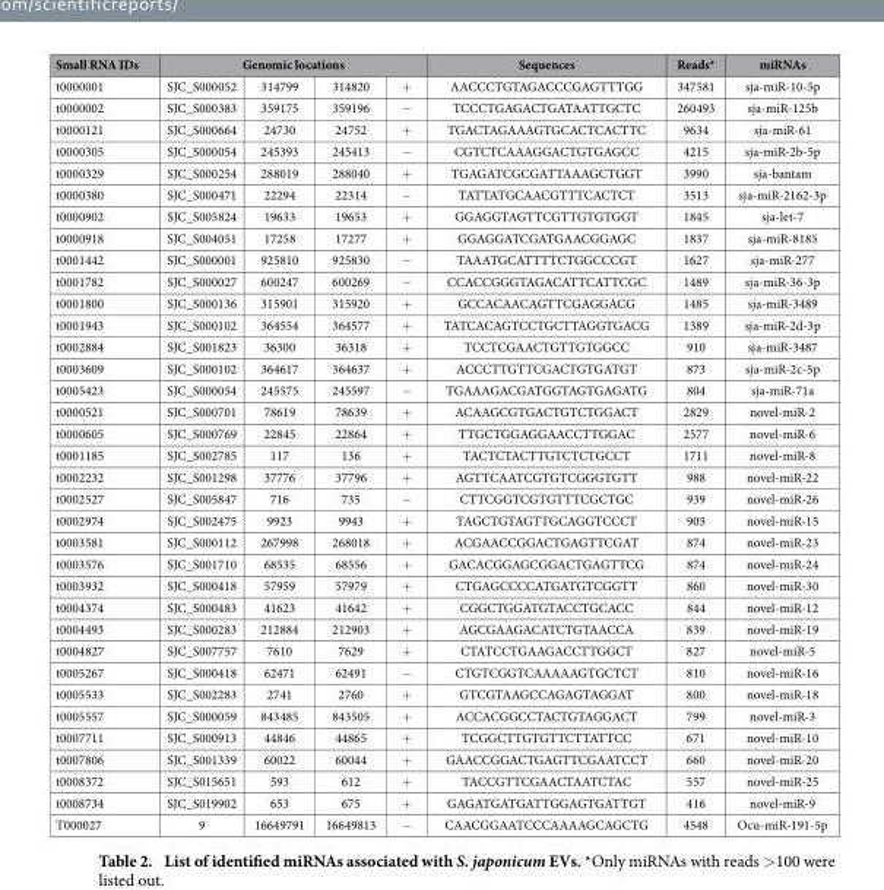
<table><thead><tr><td rowspan="2">Small RNA IDs t0000001</td><td colspan="4">Genomic locations</td><td rowspan="2">Sequences AACCCTGTAGACCCGAGTTTGG</td><td rowspan="2">Reads* 347581</td><td rowspan="2">miRNAs sja-miR-10-5p</td></tr><tr><td>SJC_S000052</td><td>314799</td><td>314820</td><td>+</td></tr></thead><tbody><tr><td>t0000002</td><td>SJC_S000383</td><td>359175</td><td>359196</td><td>−</td><td>TCCCTGAGACTGATAATTGCTC</td><td>260493</td><td>sja-miR-125b</td></tr><tr><td>t0000121</td><td>SJC_S000664</td><td>24730</td><td>24752</td><td>+</td><td>TGACTAGAAAGTGCACTCACTTC</td><td>9634</td><td>sja-miR-61</td></tr><tr><td>t0000305</td><td>SJC_S000054</td><td>245393</td><td>245413</td><td>−</td><td>CGTCTCAAAGGACTGTGAGCC</td><td>4215</td><td>sja-miR-2b-5p</td></tr><tr><td>t0000329</td><td>SJC_S000254</td><td>288019</td><td>288040</td><td>+</td><td>TGAGATCGCGATTAAAGCTGGT</td><td>3990</td><td>sja-bantam</td></tr><tr><td>t0000380</td><td>SJC_S000471</td><td>22294</td><td>22314</td><td>−</td><td>TATTATGCAACGTTTCACTCT</td><td>3513</td><td>sja-miR-2162-3p</td></tr><tr><td>t0000902</td><td>SJC_S005824</td><td>19633</td><td>19653</td><td>+</td><td>GGAGGTAGTTCGTTGTGTGGT</td><td>1845</td><td>sja-let-7</td></tr><tr><td>t0000918</td><td>SJC_S004051</td><td>17258</td><td>17277</td><td>+</td><td>GGAGGATCGATGAACGGAGC</td><td>1837</td><td>sja-miR-8185</td></tr><tr><td>t0001442</td><td>SJC_S000001</td><td>925810</td><td>925830</td><td>−</td><td>TAAATGCATTTTCTGGCCCGT</td><td>1627</td><td>sja-miR-277</td></tr><tr><td>t0001782</td><td>SJC_S000027</td><td>600247</td><td>600269</td><td>−</td><td>CCACCGGGTAGACATTCATTCGC</td><td>1489</td><td>sja-miR-36-3p</td></tr><tr><td>t0001800</td><td>SJC_S000136</td><td>315901</td><td>315920</td><td>+</td><td>GCCACAACAGTTCGAGGACG</td><td>1485</td><td>sja-miR-3489</td></tr><tr><td>t0001943</td><td>SJC_S000102</td><td>364554</td><td>364577</td><td>+</td><td>TATCACAGTCCTGCTTAGGTGACG</td><td>1389</td><td>sja-miR-2d-3p</td></tr><tr><td>t0002884</td><td>SJC_S001823</td><td>36300</td><td>36318</td><td>+</td><td>TCCTCGAACTGTTGTGGCC</td><td>910</td><td>sja-miR-3487</td></tr><tr><td>t0003609</td><td>SJC_S000102</td><td>364617</td><td>364637</td><td>+</td><td>ACCCTTGTTCGACTGTGATGT</td><td>873</td><td>sja-miR-2c-5p</td></tr><tr><td>t0005423</td><td>SJC_S000054</td><td>245575</td><td>245597</td><td>−</td><td>TGAAAGACGATGGTAGTGAGATG</td><td>804</td><td>sja-miR-71a</td></tr><tr><td>t0000521</td><td>SJC_S000701</td><td>78619</td><td>78639</td><td>+</td><td>ACAAGCGTGACTGTCTGGACT</td><td>2829</td><td>novel-miR-2</td></tr><tr><td>t0000605</td><td>SJC_S000769</td><td>22845</td><td>22864</td><td>+</td><td>TTGCTGGAGGAACCTTGGAC</td><td>2577</td><td>novel-miR-6</td></tr><tr><td>t0001185</td><td>SJC_S002785</td><td>117</td><td>136</td><td>+</td><td>TACTCTACTTGTCTCTGCCT</td><td>1711</td><td>novel-miR-8</td></tr><tr><td>t0002232</td><td>SJC_S001298</td><td>37776</td><td>37796</td><td>+</td><td>AGTTCAATCGTGTCGGGTGTT</td><td>988</td><td>novel-miR-22</td></tr><tr><td>t0002527</td><td>SJC_S005847</td><td>716</td><td>735</td><td>−</td><td>CTTCGGTCGTGTTTCGCTGC</td><td>939</td><td>novel-miR-26</td></tr><tr><td>t0002974</td><td>SJC_S002475</td><td>9923</td><td>9943</td><td>+</td><td>TAGCTGTAGTTGCAGGTCCCT</td><td>905</td><td>novel-miR-15</td></tr><tr><td>t0003581</td><td>SJC_S000112</td><td>267998</td><td>268018</td><td>+</td><td>ACGAACCGGACTGAGTTCGAT</td><td>874</td><td>novel-miR-23</td></tr><tr><td>t0003576</td><td>SJC_S001710</td><td>68535</td><td>68556</td><td>+</td><td>GACACGGAGCGGACTGAGTTCG</td><td>874</td><td>novel-miR-24</td></tr><tr><td>t0003932</td><td>SJC_S000418</td><td>57959</td><td>57979</td><td>+</td><td>CTGAGCCCCATGATGTCGGTT</td><td>860</td><td>novel-miR-30</td></tr><tr><td>t0004374</td><td>SJC_S000483</td><td>41623</td><td>41642</td><td>+</td><td>CGGCTGGATGTACCTGCACC</td><td>844</td><td>novel-miR-12</td></tr><tr><td>t0004493</td><td>SJC_S000283</td><td>212884</td><td>212903</td><td>+</td><td>AGCGAAGACATCTGTAACCA</td><td>839</td><td>novel-miR-19</td></tr><tr><td>t0004827</td><td>SJC_S007757</td><td>7610</td><td>7629</td><td>+</td><td>CTATCCTGAAGACCTTGGCT</td><td>827</td><td>novel-miR-5</td></tr><tr><td>t0005267</td><td>SJC_S000418</td><td>62471</td><td>62491</td><td>−</td><td>CTGTCGGTCAAAAAGTGCTCT</td><td>810</td><td>novel-miR-16</td></tr><tr><td>t0005533</td><td>SJC_S002283</td><td>2741</td><td>2760</td><td>+</td><td>GTCGTAAGCCAGAGTAGGAT</td><td>800</td><td>novel-miR-18</td></tr><tr><td>t0005557</td><td>SJC_S000059</td><td>843485</td><td>843505</td><td>+</td><td>ACCACGGCCTACTGTAGGACT</td><td>799</td><td>novel-miR-3</td></tr><tr><td>t0007711</td><td>SJC_S000913</td><td>44846</td><td>44865</td><td>+</td><td>TCGGCTTGTGTTCTTATTCC</td><td>671</td><td>novel-miR-10</td></tr><tr><td>t0007806</td><td>SJC_S001339</td><td>60022</td><td>60044</td><td>+</td><td>GAACCGGACTGAGTTCGAATCCT</td><td>660</td><td>novel-miR-20</td></tr><tr><td>t0008372</td><td>SJC_S015651</td><td>593</td><td>612</td><td>+</td><td>TACCGTTCGAACTAATCTAC</td><td>557</td><td>novel-miR-25</td></tr><tr><td>t0008734</td><td>SJC_S019902</td><td>653</td><td>675</td><td>+</td><td>GAGATGATGATTGGAGTGATTGT</td><td>416</td><td>novel-miR-9</td></tr><tr><td>T000027</td><td>9</td><td>16649791</td><td>16649813</td><td>−</td><td>CAACGGAATCCCAAAAGCAGCTG</td><td>4548</td><td>Ocu-miR-191-5p</td></tr></tbody></table>